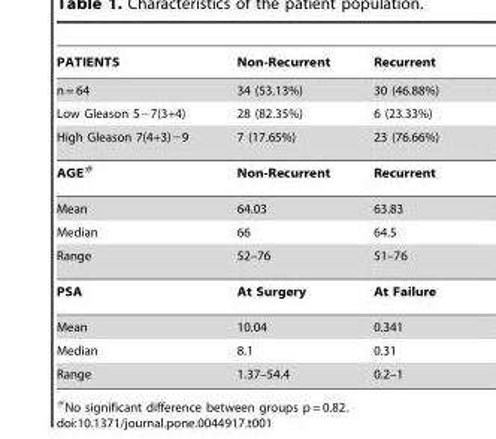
<table><thead><tr><td>PATIENTS</td><td>Non-Recurrent</td><td>Recurrent</td></tr></thead><tbody><tr><td>n = 64</td><td>34 (53.13%)</td><td>30 (46.88%)</td></tr><tr><td>Low Gleason 5−7(3+4)</td><td>28 (82.35%)</td><td>6 (23.33%)</td></tr><tr><td>High Gleason 7(4+3)−9</td><td>7 (17.65%)</td><td>23 (76.66%)</td></tr><tr><td>AGE#</td><td>Non-Recurrent</td><td>Recurrent</td></tr><tr><td>Mean</td><td>64.03</td><td>63.83</td></tr><tr><td>Median</td><td>66</td><td>64.5</td></tr><tr><td>Range</td><td>52–76</td><td>51–76</td></tr><tr><td>PSA</td><td>At Surgery</td><td>At Failure</td></tr><tr><td>Mean</td><td>10.04</td><td>0.341</td></tr><tr><td>Median</td><td>8.1</td><td>0.31</td></tr><tr><td>Range</td><td>1.37–54.4</td><td>0.2–1</td></tr></tbody></table>